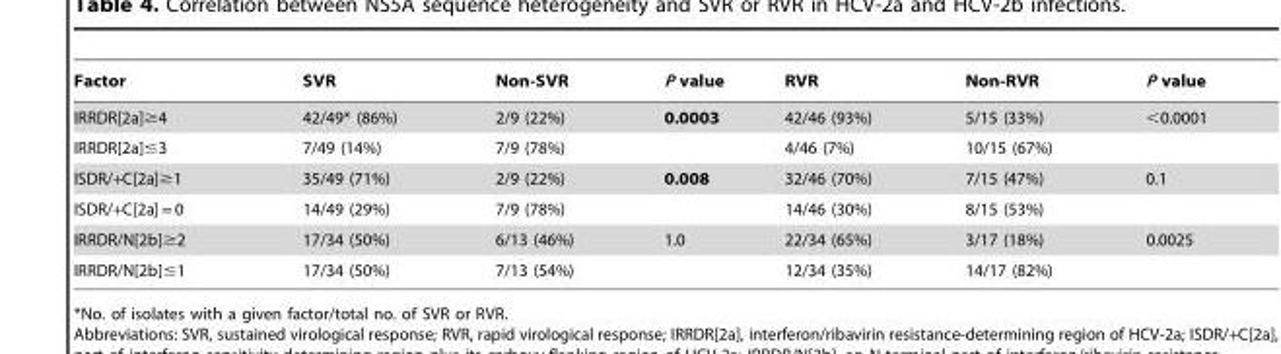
<table><thead><tr><td>Factor</td><td>SVR</td><td>Non-SVR</td><td>P value</td><td>RVR</td><td>Non-RVR</td><td>P value</td></tr></thead><tbody><tr><td>IRRDR[2a]≥4</td><td>42/49* (86%)</td><td>2/9 (22%)</td><td>0.0003</td><td>42/46 (93%)</td><td>5/15 (33%)</td><td>&lt;0.0001</td></tr><tr><td>IRRDR[2a]≤3</td><td>7/49 (14%)</td><td>7/9 (78%)</td><td></td><td>4/46 (7%)</td><td>10/15 (67%)</td><td></td></tr><tr><td>ISDR/+C[2a]≥1</td><td>35/49 (71%)</td><td>2/9 (22%)</td><td>0.008</td><td>32/46 (70%)</td><td>7/15 (47%)</td><td>0.1</td></tr><tr><td>ISDR/+C[2a] = 0</td><td>14/49 (29%)</td><td>7/9 (78%)</td><td></td><td>14/46 (30%)</td><td>8/15 (53%)</td><td></td></tr><tr><td>IRRDR/N[2b]≥2</td><td>17/34 (50%)</td><td>6/13 (46%)</td><td>1.0</td><td>22/34 (65%)</td><td>3/17 (18%)</td><td>0.0025</td></tr><tr><td>IRRDR/N[2b]≤1</td><td>17/34 (50%)</td><td>7/13 (54%)</td><td></td><td>12/34 (35%)</td><td>14/17 (82%)</td><td></td></tr></tbody></table>